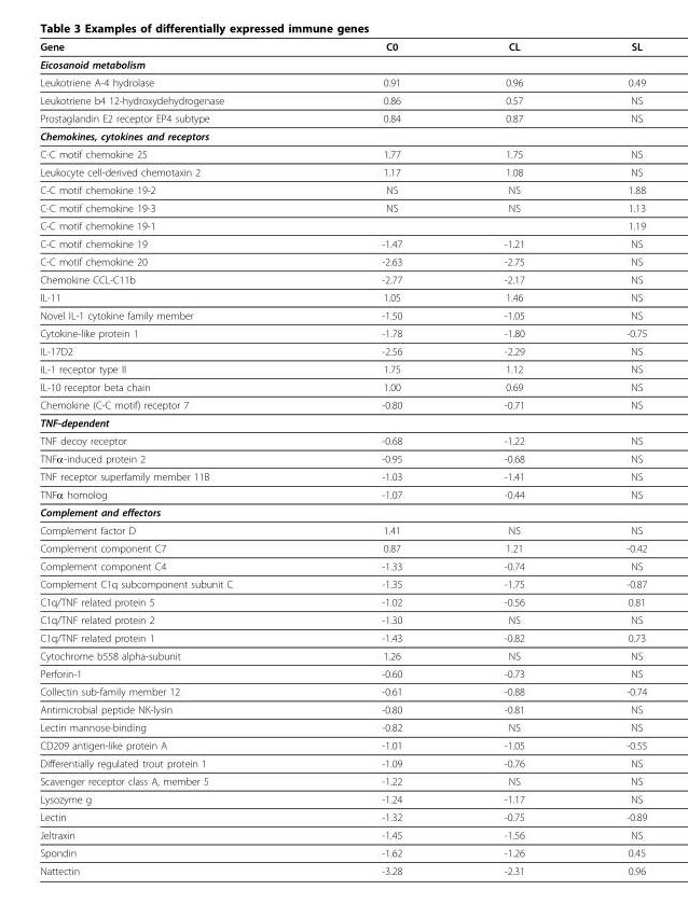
<table><thead><tr><td>Gene</td><td>C0</td><td>CL</td><td>SL</td></tr></thead><tbody><tr><td colspan="4">Eicosanoid metabolism</td></tr><tr><td>Leukotriene A-4 hydrolase</td><td>0.91</td><td>0.96</td><td>0.49</td></tr><tr><td>Leukotriene b4 12-hydroxydehydrogenase</td><td>0.86</td><td>0.57</td><td>NS</td></tr><tr><td>Prostaglandin E2 receptor EP4 subtype</td><td>0.84</td><td>0.87</td><td>NS</td></tr><tr><td colspan="4">Chemokines, cytokines and receptors</td></tr><tr><td>C-C motif chemokine 25</td><td>1.77</td><td>1.75</td><td>NS</td></tr><tr><td>Leukocyte cell-derived chemotaxin 2</td><td>1.17</td><td>1.08</td><td>NS</td></tr><tr><td>C-C motif chemokine 19-2</td><td>NS</td><td>NS</td><td>1.88</td></tr><tr><td>C-C motif chemokine 19-3</td><td>NS</td><td>NS</td><td>1.13</td></tr><tr><td>C-C motif chemokine 19-1</td><td></td><td></td><td>1.19</td></tr><tr><td>C-C motif chemokine 19</td><td>-1.47</td><td>-1.21</td><td>NS</td></tr><tr><td>C-C motif chemokine 20</td><td>-2.63</td><td>-2.75</td><td>NS</td></tr><tr><td>Chemokine CCL-C11b</td><td>-2.77</td><td>-2.17</td><td>NS</td></tr><tr><td>IL-11</td><td>1.05</td><td>1.46</td><td>NS</td></tr><tr><td>Novel IL-1 cytokine family member</td><td>-1.50</td><td>-1.05</td><td>NS</td></tr><tr><td>Cytokine-like protein 1</td><td>-1.78</td><td>-1.80</td><td>-0.75</td></tr><tr><td>IL-17D2</td><td>-2.56</td><td>-2.29</td><td>NS</td></tr><tr><td>IL-1 receptor type II</td><td>1.75</td><td>1.12</td><td>NS</td></tr><tr><td>IL-10 receptor beta chain</td><td>1.00</td><td>0.69</td><td>NS</td></tr><tr><td>Chemokine (C-C motif) receptor 7</td><td>-0.80</td><td>-0.71</td><td>NS</td></tr><tr><td colspan="4">TNF-dependent</td></tr><tr><td>TNF decoy receptor</td><td>-0.68</td><td>-1.22</td><td>NS</td></tr><tr><td>TNFα-induced protein 2</td><td>-0.95</td><td>-0.68</td><td>NS</td></tr><tr><td>TNF receptor superfamily member 11B</td><td>-1.03</td><td>-1.41</td><td>NS</td></tr><tr><td>TNFα homolog</td><td>-1.07</td><td>-0.44</td><td>NS</td></tr><tr><td colspan="4">Complement and effectors</td></tr><tr><td>Complement factor D</td><td>1.41</td><td>NS</td><td>NS</td></tr><tr><td>Complement component C7</td><td>0.87</td><td>1.21</td><td>-0.42</td></tr><tr><td>Complement component C4</td><td>-1.33</td><td>-0.74</td><td>NS</td></tr><tr><td>Complement C1q subcomponent subunit C</td><td>-1.35</td><td>-1.75</td><td>-0.87</td></tr><tr><td>C1q/TNF related protein 5</td><td>-1.02</td><td>-0.56</td><td>0.81</td></tr><tr><td>C1q/TNF related protein 2</td><td>-1.30</td><td>NS</td><td>NS</td></tr><tr><td>C1q/TNF related protein 1</td><td>-1.43</td><td>-0.82</td><td>0.73</td></tr><tr><td>Cytochrome b558 alpha-subunit</td><td>1.26</td><td>NS</td><td>NS</td></tr><tr><td>Perforin-1</td><td>-0.60</td><td>-0.73</td><td>NS</td></tr><tr><td>Collectin sub-family member 12</td><td>-0.61</td><td>-0.88</td><td>-0.74</td></tr><tr><td>Antimicrobial peptide NK-lysin</td><td>-0.80</td><td>-0.81</td><td>NS</td></tr><tr><td>Lectin mannose-binding</td><td>-0.82</td><td>NS</td><td>NS</td></tr><tr><td>CD209 antigen-like protein A</td><td>-1.01</td><td>-1.05</td><td>-0.55</td></tr><tr><td>Differentially regulated trout protein 1</td><td>-1.09</td><td>-0.76</td><td>NS</td></tr><tr><td>Scavenger receptor class A, member 5</td><td>-1.22</td><td>NS</td><td>NS</td></tr><tr><td>Lysozyme g</td><td>-1.24</td><td>-1.17</td><td>NS</td></tr><tr><td>Lectin</td><td>-1.32</td><td>-0.75</td><td>-0.89</td></tr><tr><td>Jeltraxin</td><td>-1.45</td><td>-1.56</td><td>NS</td></tr><tr><td>Spondin</td><td>-1.62</td><td>-1.26</td><td>0.45</td></tr><tr><td>Nattectin</td><td>-3.28</td><td>-2.31</td><td>0.96</td></tr></tbody></table>